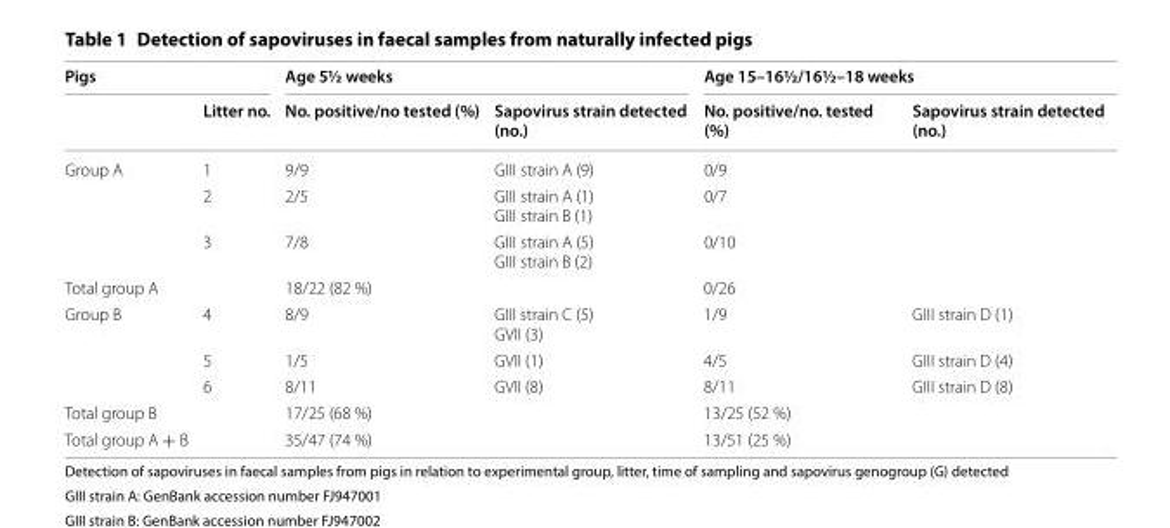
<table><thead><tr><td colspan="2">Pigs</td><td colspan="2">Age 5½ weeks</td><td colspan="2">Age 15–16½/16½–18 weeks</td></tr><tr><td></td><td>Litter no.</td><td>No. positive/no tested (%)</td><td>Sapovirus strain detected (no.)</td><td>No. positive/no. tested (%)</td><td>Sapovirus strain detected (no.)</td></tr></thead><tbody><tr><td rowspan="3">Group A</td><td>1</td><td>9/9</td><td>GIII strain A (9)</td><td>0/9</td><td></td></tr><tr><td>2</td><td>2/5</td><td>GIII strain A (1) GIII strain B (1)</td><td>0/7</td><td></td></tr><tr><td>3</td><td>7/8</td><td>GIII strain A (5) GIII strain B (2)</td><td>0/10</td><td></td></tr><tr><td>Total group A</td><td></td><td>18/22 (82 %)</td><td></td><td>0/26</td><td></td></tr><tr><td rowspan="3">Group B</td><td>4</td><td>8/9</td><td>GIII strain C (5) GVII (3)</td><td>1/9</td><td>GIII strain D (1)</td></tr><tr><td>5</td><td>1/5</td><td>GVII (1)</td><td>4/5</td><td>GIII strain D (4)</td></tr><tr><td>6</td><td>8/11</td><td>GVII (8)</td><td>8/11</td><td>GIII strain D (8)</td></tr><tr><td>Total group B</td><td></td><td>17/25 (68 %)</td><td></td><td>13/25 (52 %)</td><td></td></tr><tr><td>Total group A + B</td><td></td><td>35/47 (74 %)</td><td></td><td>13/51 (25 %)</td><td></td></tr></tbody></table>